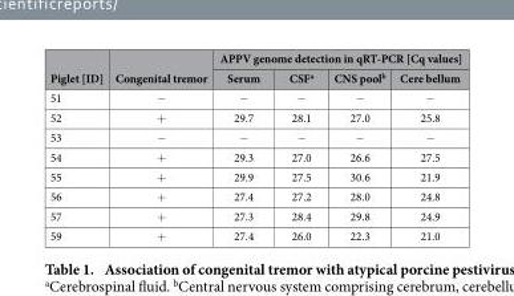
<table><thead><tr><td rowspan="2">Piglet [ID]</td><td rowspan="2">Congenital tremor</td><td colspan="4">APPV genome detection in qRT-PCR [Cq values]</td></tr><tr><td>Serum</td><td>CSF<sup>a</sup></td><td>CNS pool<sup>b</sup></td><td>Cere bellum</td></tr></thead><tbody><tr><td>51</td><td>−</td><td>−</td><td>−</td><td>−</td><td>−</td></tr><tr><td>52</td><td>+</td><td>29.7</td><td>28.1</td><td>27.0</td><td>25.8</td></tr><tr><td>53</td><td>−</td><td>−</td><td>−</td><td>−</td><td>−</td></tr><tr><td>54</td><td>+</td><td>29.3</td><td>27.0</td><td>26.6</td><td>27.5</td></tr><tr><td>55</td><td>+</td><td>29.9</td><td>27.5</td><td>30.6</td><td>21.9</td></tr><tr><td>56</td><td>+</td><td>27.4</td><td>27.2</td><td>28.0</td><td>24.8</td></tr><tr><td>57</td><td>+</td><td>27.3</td><td>28.4</td><td>29.8</td><td>24.9</td></tr><tr><td>59</td><td>+</td><td>27.4</td><td>26.0</td><td>22.3</td><td>21.0</td></tr></tbody></table>